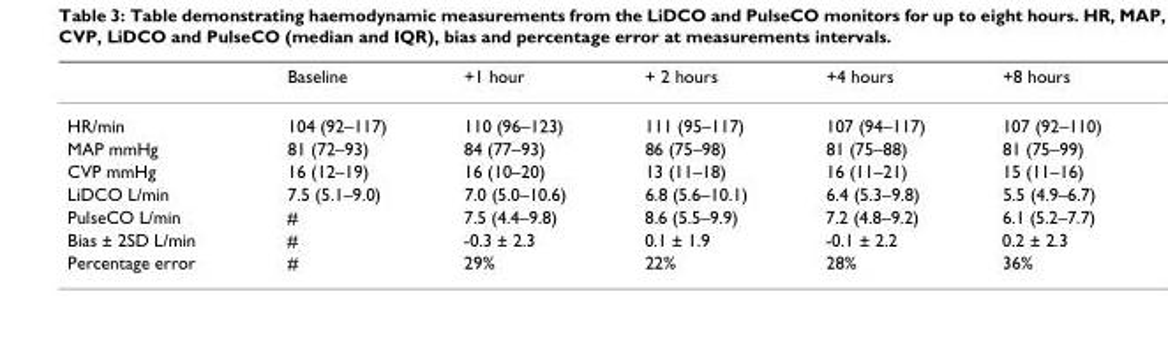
<table><thead><tr><td></td><td>Baseline</td><td>+1 hour</td><td>+ 2 hours</td><td>+4 hours</td><td>+8 hours</td></tr></thead><tbody><tr><td>HR/min</td><td>104 (92–117)</td><td>110 (96–123)</td><td>111 (95–117)</td><td>107 (94–117)</td><td>107 (92–110)</td></tr><tr><td>MAP mmHg</td><td>81 (72–93)</td><td>84 (77–93)</td><td>86 (75–98)</td><td>81 (75–88)</td><td>81 (75–99)</td></tr><tr><td>CVP mmHg</td><td>16 (12–19)</td><td>16 (10–20)</td><td>13 (11–18)</td><td>16 (11–21)</td><td>15 (11–16)</td></tr><tr><td>LiDCO L/min</td><td>7.5 (5.1–9.0)</td><td>7.0 (5.0–10.6)</td><td>6.8 (5.6–10.1)</td><td>6.4 (5.3–9.8)</td><td>5.5 (4.9–6.7)</td></tr><tr><td>PulseCO L/min</td><td>#</td><td>7.5 (4.4–9.8)</td><td>8.6 (5.5–9.9)</td><td>7.2 (4.8–9.2)</td><td>6.1 (5.2–7.7)</td></tr><tr><td>Bias ± 2SD L/min</td><td>#</td><td>-0.3 ± 2.3</td><td>0.1 ± 1.9</td><td>-0.1 ± 2.2</td><td>0.2 ± 2.3</td></tr><tr><td>Percentage error</td><td>#</td><td>29%</td><td>22%</td><td>28%</td><td>36%</td></tr></tbody></table>